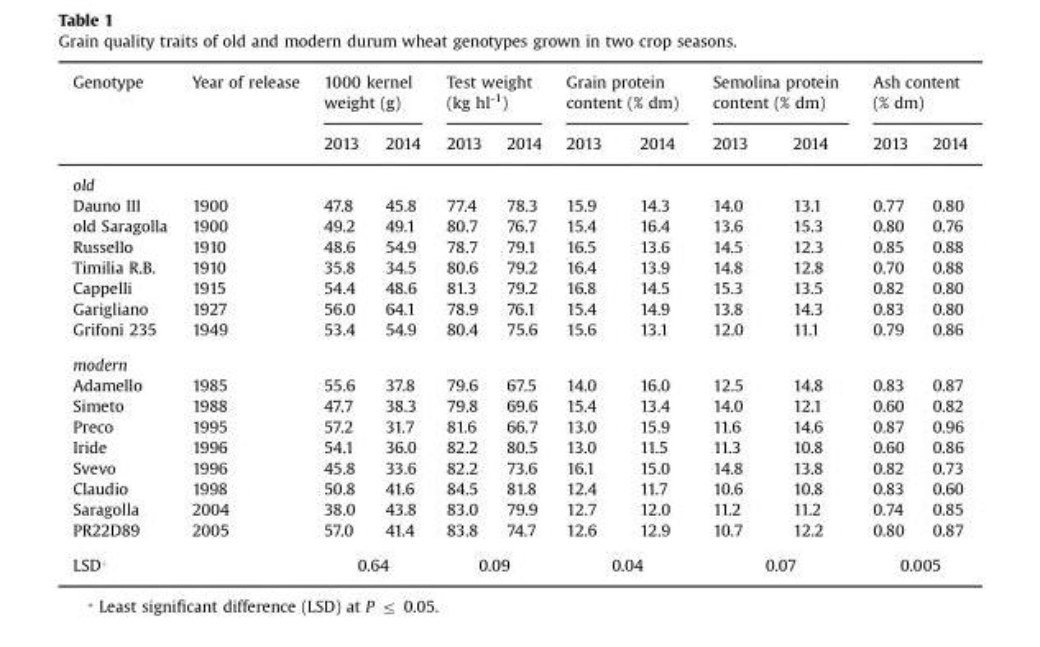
<table><thead><tr><td rowspan="2">Genotype</td><td rowspan="2">Year of release</td><td colspan="2">1000 kernel weight (g)</td><td colspan="2">Test weight (kg hl<sup>-1</sup>)</td><td colspan="2">Grain protein content (% dm)</td><td colspan="2">Semolina protein content (% dm)</td><td colspan="2">Ash content (% dm)</td></tr><tr><td>2013</td><td>2014</td><td>2013</td><td>2014</td><td>2013</td><td>2014</td><td>2013</td><td>2014</td><td>2013</td><td>2014</td></tr></thead><tbody><tr><td colspan="12">old</td></tr><tr><td>Dauno III</td><td>1900</td><td>47.8</td><td>45.8</td><td>77.4</td><td>78.3</td><td>15.9</td><td>14.3</td><td>14.0</td><td>13.1</td><td>0.77</td><td>0.80</td></tr><tr><td>old Saragolla</td><td>1900</td><td>49.2</td><td>49.1</td><td>80.7</td><td>76.7</td><td>15.4</td><td>16.4</td><td>13.6</td><td>15.3</td><td>0.80</td><td>0.76</td></tr><tr><td>Russello</td><td>1910</td><td>48.6</td><td>54.9</td><td>78.7</td><td>79.1</td><td>16.5</td><td>13.6</td><td>14.5</td><td>12.3</td><td>0.85</td><td>0.88</td></tr><tr><td>Timilia R.B.</td><td>1910</td><td>35.8</td><td>34.5</td><td>80.6</td><td>79.2</td><td>16.4</td><td>13.9</td><td>14.8</td><td>12.8</td><td>0.70</td><td>0.88</td></tr><tr><td>Cappelli</td><td>1915</td><td>54.4</td><td>48.6</td><td>81.3</td><td>79.2</td><td>16.8</td><td>14.5</td><td>15.3</td><td>13.5</td><td>0.82</td><td>0.80</td></tr><tr><td>Garigliano</td><td>1927</td><td>56.0</td><td>64.1</td><td>78.9</td><td>76.1</td><td>15.4</td><td>14.9</td><td>13.8</td><td>14.3</td><td>0.83</td><td>0.80</td></tr><tr><td>Grifoni 235</td><td>1949</td><td>53.4</td><td>54.9</td><td>80.4</td><td>75.6</td><td>15.6</td><td>13.1</td><td>12.0</td><td>11.1</td><td>0.79</td><td>0.86</td></tr><tr><td colspan="12">modern</td></tr><tr><td>Adamello</td><td>1985</td><td>55.6</td><td>37.8</td><td>79.6</td><td>67.5</td><td>14.0</td><td>16.0</td><td>12.5</td><td>14.8</td><td>0.83</td><td>0.87</td></tr><tr><td>Simeto</td><td>1988</td><td>47.7</td><td>38.3</td><td>79.8</td><td>69.6</td><td>15.4</td><td>13.4</td><td>14.0</td><td>12.1</td><td>0.60</td><td>0.82</td></tr><tr><td>Preco</td><td>1995</td><td>57.2</td><td>31.7</td><td>81.6</td><td>66.7</td><td>13.0</td><td>15.9</td><td>11.6</td><td>14.6</td><td>0.87</td><td>0.96</td></tr><tr><td>Iride</td><td>1996</td><td>54.1</td><td>36.0</td><td>82.2</td><td>80.5</td><td>13.0</td><td>11.5</td><td>11.3</td><td>10.8</td><td>0.60</td><td>0.86</td></tr><tr><td>Svevo</td><td>1996</td><td>45.8</td><td>33.6</td><td>82.2</td><td>73.6</td><td>16.1</td><td>15.0</td><td>14.8</td><td>13.8</td><td>0.82</td><td>0.73</td></tr><tr><td>Claudio</td><td>1998</td><td>50.8</td><td>41.6</td><td>84.5</td><td>81.8</td><td>12.4</td><td>11.7</td><td>10.6</td><td>10.8</td><td>0.83</td><td>0.60</td></tr><tr><td>Saragolla</td><td>2004</td><td>38.0</td><td>43.8</td><td>83.0</td><td>79.9</td><td>12.7</td><td>12.0</td><td>11.2</td><td>11.2</td><td>0.74</td><td>0.85</td></tr><tr><td>PR22D89</td><td>2005</td><td>57.0</td><td>41.4</td><td>83.8</td><td>74.7</td><td>12.6</td><td>12.9</td><td>10.7</td><td>12.2</td><td>0.80</td><td>0.87</td></tr><tr><td>LSD⁎</td><td></td><td colspan="2">0.64</td><td colspan="2">0.09</td><td colspan="2">0.04</td><td colspan="2">0.07</td><td colspan="2">0.005</td></tr></tbody></table>